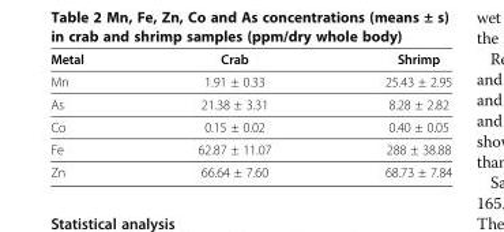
<table><thead><tr><td>Metal</td><td>Crab</td><td>Shrimp</td></tr></thead><tbody><tr><td>Mn</td><td>1.91 ± 0.33</td><td>25.43 ± 2.95</td></tr><tr><td>As</td><td>21.38 ± 3.31</td><td>8.28 ± 2.82</td></tr><tr><td>Co</td><td>0.15 ± 0.02</td><td>0.40 ± 0.05</td></tr><tr><td>Fe</td><td>62.87 ± 11.07</td><td>288 ± 38.88</td></tr><tr><td>Zn</td><td>66.64 ± 7.60</td><td>68.73 ± 7.84</td></tr></tbody></table>